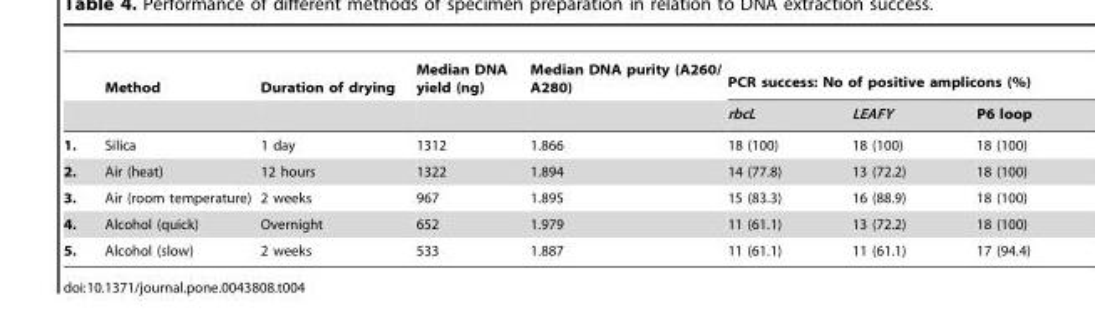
<table><thead><tr><td rowspan="2"></td><td rowspan="2">Method</td><td rowspan="2">Duration of drying</td><td rowspan="2">Median DNA yield (ng)</td><td rowspan="2">Median DNA purity (A260/ A280)</td><td colspan="3">PCR success: No of positive amplicons (%)</td></tr><tr><td>rbcL</td><td>LEAFY</td><td>P6 loop</td></tr></thead><tbody><tr><td>1.</td><td>Silica</td><td>1 day</td><td>1312</td><td>1.866</td><td>18 (100)</td><td>18 (100)</td><td>18 (100)</td></tr><tr><td>2.</td><td>Air (heat)</td><td>12 hours</td><td>1322</td><td>1.894</td><td>14 (77.8)</td><td>13 (72.2)</td><td>18 (100)</td></tr><tr><td>3.</td><td>Air (room temperature)</td><td>2 weeks</td><td>967</td><td>1.895</td><td>15 (83.3)</td><td>16 (88.9)</td><td>18 (100)</td></tr><tr><td>4.</td><td>Alcohol (quick)</td><td>Overnight</td><td>652</td><td>1.979</td><td>11 (61.1)</td><td>13 (72.2)</td><td>18 (100)</td></tr><tr><td>5.</td><td>Alcohol (slow)</td><td>2 weeks</td><td>533</td><td>1.887</td><td>11 (61.1)</td><td>11 (61.1)</td><td>17 (94.4)</td></tr></tbody></table>